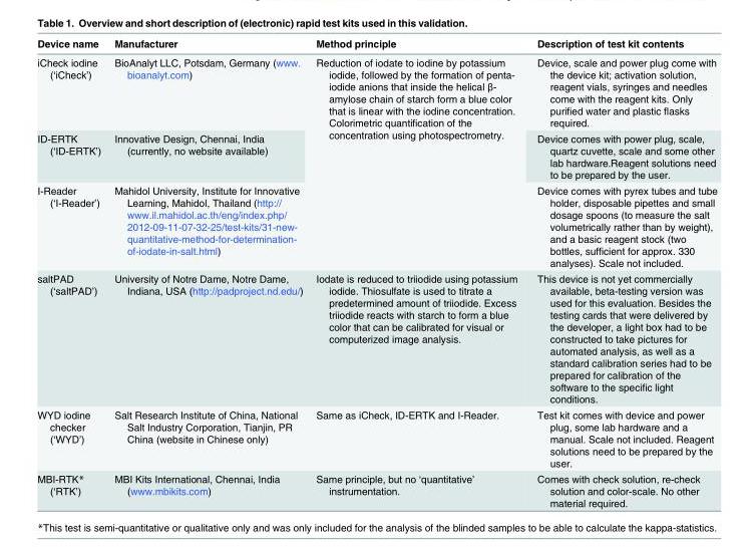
<table><thead><tr><td>Device name</td><td>Manufacturer</td><td>Method principle</td><td>Description of test kit contents</td></tr></thead><tbody><tr><td>iCheck iodine (‘iCheck’)</td><td>BioAnalyt LLC, Potsdam, Germany (www. bioanalyt.com)</td><td rowspan="3">Reduction of iodate to iodine by potassium iodide, followed by the formation of penta- iodide anions that inside the helical β- amylose chain of starch form a blue color that is linear with the iodine concentration. Colorimetric quantification of the concentration using photospectrometry.</td><td>Device, scale and power plug come with the device kit; activation solution, reagent vials, syringes and needles come with the reagent kits. Only purified water and plastic flasks required.</td></tr><tr><td>ID-ERTK (‘ID-ERTK’)</td><td>Innovative Design, Chennai, India (currently, no website available)</td><td>Device comes with power plug, scale, quartz cuvette, scale and some other lab hardware.Reagent solutions need to be prepared by the user.</td></tr><tr><td>I-Reader (‘I-Reader’)</td><td>Mahidol University, Institute for Innovative Learning, Mahidol, Thailand (http:// www.il.mahidol.ac.th/eng/index.php/ 2012-09-11-07-32-25/test-kits/31-new- quantitative-method-for-determination- of-iodate-in-salt.html)</td><td>Device comes with pyrex tubes and tube holder, disposable pipettes and small dosage spoons (to measure the salt volumetrically rather than by weight), and a basic reagent stock (two bottles, sufficient for approx. 330 analyses). Scale not included.</td></tr><tr><td>saltPAD (‘saltPAD’)</td><td>University of Notre Dame, Notre Dame, Indiana, USA (http://padproject.nd.edu/)</td><td>Iodate is reduced to triiodide using potassium iodide. Thiosulfate is used to titrate a predetermined amount of triiodide. Excess triiodide reacts with starch to form a blue color that can be calibrated for visual or computerized image analysis.</td><td>This device is not yet commercially available, beta-testing version was used for this evaluation. Besides the testing cards that were delivered by the developer, a light box had to be constructed to take pictures for automated analysis, as well as a standard calibration series had to be prepared for calibration of the software to the specific light conditions.</td></tr><tr><td>WYD iodine checker (‘WYD’)</td><td>Salt Research Institute of China, National Salt Industry Corporation, Tianjin, PR China (website in Chinese only)</td><td>Same as iCheck, ID-ERTK and I-Reader.</td><td>Test kit comes with device and power plug, some lab hardware and a manual. Scale not included. Reagent solutions need to be prepared by the user.</td></tr><tr><td>MBI-RTK* (‘RTK’)</td><td>MBI Kits International, Chennai, India (www.mbikits.com)</td><td>Same principle, but no ‘quantitative’ instrumentation.</td><td>Comes with check solution, re-check solution and color-scale. No other material required.</td></tr></tbody></table>